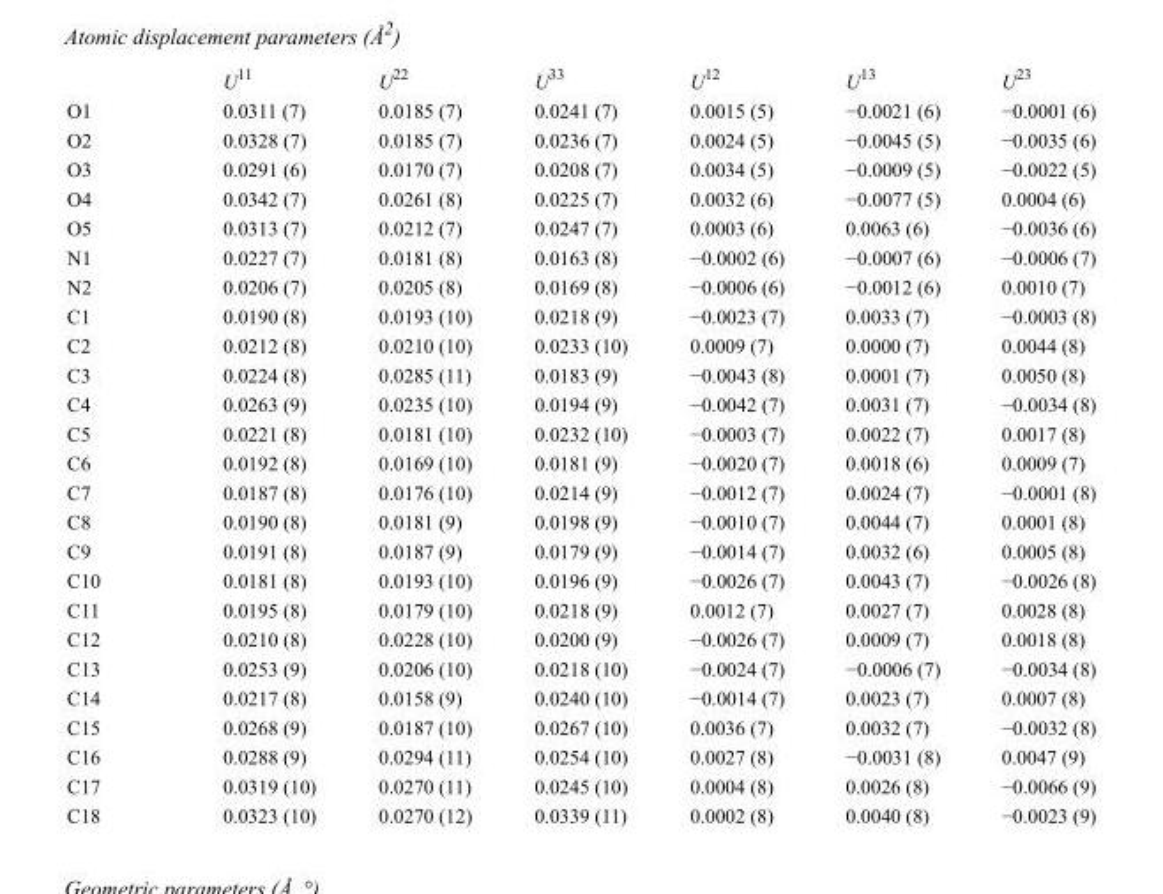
<table><thead><tr><td></td><td>U<sup>11</sup></td><td>U<sup>22</sup></td><td>U<sup>33</sup></td><td>U<sup>12</sup></td><td>U<sup>13</sup></td><td>U<sup>23</sup></td></tr></thead><tbody><tr><td>O1</td><td>0.0311 (7)</td><td>0.0185 (7)</td><td>0.0241 (7)</td><td>0.0015 (5)</td><td>−0.0021 (6)</td><td>−0.0001 (6)</td></tr><tr><td>O2</td><td>0.0328 (7)</td><td>0.0185 (7)</td><td>0.0236 (7)</td><td>0.0024 (5)</td><td>−0.0045 (5)</td><td>−0.0035 (6)</td></tr><tr><td>O3</td><td>0.0291 (6)</td><td>0.0170 (7)</td><td>0.0208 (7)</td><td>0.0034 (5)</td><td>−0.0009 (5)</td><td>−0.0022 (5)</td></tr><tr><td>O4</td><td>0.0342 (7)</td><td>0.0261 (8)</td><td>0.0225 (7)</td><td>0.0032 (6)</td><td>−0.0077 (5)</td><td>0.0004 (6)</td></tr><tr><td>O5</td><td>0.0313 (7)</td><td>0.0212 (7)</td><td>0.0247 (7)</td><td>0.0003 (6)</td><td>0.0063 (6)</td><td>−0.0036 (6)</td></tr><tr><td>N1</td><td>0.0227 (7)</td><td>0.0181 (8)</td><td>0.0163 (8)</td><td>−0.0002 (6)</td><td>−0.0007 (6)</td><td>−0.0006 (7)</td></tr><tr><td>N2</td><td>0.0206 (7)</td><td>0.0205 (8)</td><td>0.0169 (8)</td><td>−0.0006 (6)</td><td>−0.0012 (6)</td><td>0.0010 (7)</td></tr><tr><td>C1</td><td>0.0190 (8)</td><td>0.0193 (10)</td><td>0.0218 (9)</td><td>−0.0023 (7)</td><td>0.0033 (7)</td><td>−0.0003 (8)</td></tr><tr><td>C2</td><td>0.0212 (8)</td><td>0.0210 (10)</td><td>0.0233 (10)</td><td>0.0009 (7)</td><td>0.0000 (7)</td><td>0.0044 (8)</td></tr><tr><td>C3</td><td>0.0224 (8)</td><td>0.0285 (11)</td><td>0.0183 (9)</td><td>−0.0043 (8)</td><td>0.0001 (7)</td><td>0.0050 (8)</td></tr><tr><td>C4</td><td>0.0263 (9)</td><td>0.0235 (10)</td><td>0.0194 (9)</td><td>−0.0042 (7)</td><td>0.0031 (7)</td><td>−0.0034 (8)</td></tr><tr><td>C5</td><td>0.0221 (8)</td><td>0.0181 (10)</td><td>0.0232 (10)</td><td>−0.0003 (7)</td><td>0.0022 (7)</td><td>0.0017 (8)</td></tr><tr><td>C6</td><td>0.0192 (8)</td><td>0.0169 (10)</td><td>0.0181 (9)</td><td>−0.0020 (7)</td><td>0.0018 (6)</td><td>0.0009 (7)</td></tr><tr><td>C7</td><td>0.0187 (8)</td><td>0.0176 (10)</td><td>0.0214 (9)</td><td>−0.0012 (7)</td><td>0.0024 (7)</td><td>−0.0001 (8)</td></tr><tr><td>C8</td><td>0.0190 (8)</td><td>0.0181 (9)</td><td>0.0198 (9)</td><td>−0.0010 (7)</td><td>0.0044 (7)</td><td>0.0001 (8)</td></tr><tr><td>C9</td><td>0.0191 (8)</td><td>0.0187 (9)</td><td>0.0179 (9)</td><td>−0.0014 (7)</td><td>0.0032 (6)</td><td>0.0005 (8)</td></tr><tr><td>C10</td><td>0.0181 (8)</td><td>0.0193 (10)</td><td>0.0196 (9)</td><td>−0.0026 (7)</td><td>0.0043 (7)</td><td>−0.0026 (8)</td></tr><tr><td>C11</td><td>0.0195 (8)</td><td>0.0179 (10)</td><td>0.0218 (9)</td><td>0.0012 (7)</td><td>0.0027 (7)</td><td>0.0028 (8)</td></tr><tr><td>C12</td><td>0.0210 (8)</td><td>0.0228 (10)</td><td>0.0200 (9)</td><td>−0.0026 (7)</td><td>0.0009 (7)</td><td>0.0018 (8)</td></tr><tr><td>C13</td><td>0.0253 (9)</td><td>0.0206 (10)</td><td>0.0218 (10)</td><td>−0.0024 (7)</td><td>−0.0006 (7)</td><td>−0.0034 (8)</td></tr><tr><td>C14</td><td>0.0217 (8)</td><td>0.0158 (9)</td><td>0.0240 (10)</td><td>−0.0014 (7)</td><td>0.0023 (7)</td><td>0.0007 (8)</td></tr><tr><td>C15</td><td>0.0268 (9)</td><td>0.0187 (10)</td><td>0.0267 (10)</td><td>0.0036 (7)</td><td>0.0032 (7)</td><td>−0.0032 (8)</td></tr><tr><td>C16</td><td>0.0288 (9)</td><td>0.0294 (11)</td><td>0.0254 (10)</td><td>0.0027 (8)</td><td>−0.0031 (8)</td><td>0.0047 (9)</td></tr><tr><td>C17</td><td>0.0319 (10)</td><td>0.0270 (11)</td><td>0.0245 (10)</td><td>0.0004 (8)</td><td>0.0026 (8)</td><td>−0.0066 (9)</td></tr><tr><td>C18</td><td>0.0323 (10)</td><td>0.0270 (12)</td><td>0.0339 (11)</td><td>0.0002 (8)</td><td>0.0040 (8)</td><td>−0.0023 (9)</td></tr></tbody></table>